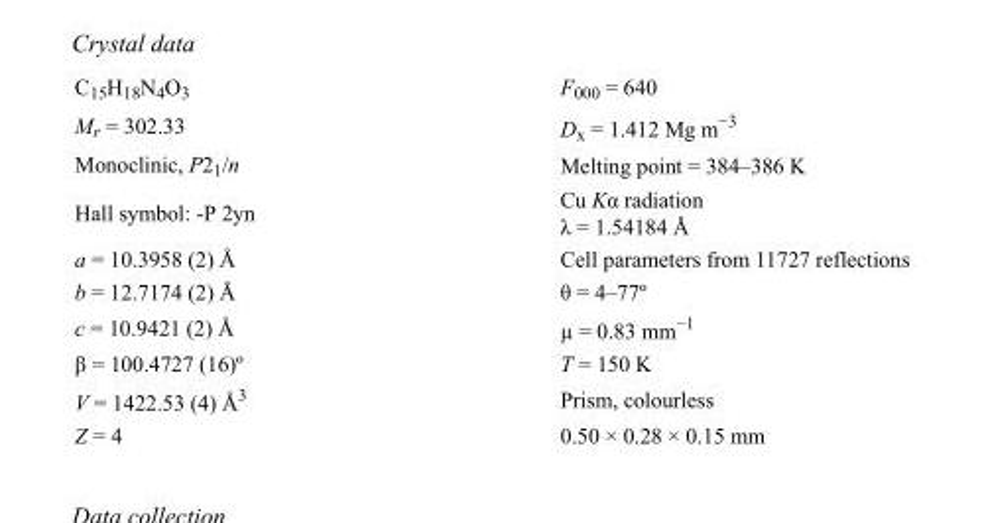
<table><tbody><tr><td>C<sub>15</sub>H<sub>18</sub>N<sub>4</sub>O<sub>3</sub></td><td>F000 = 640</td></tr><tr><td>M<sub>r</sub> = 302.33</td><td>D<sub>x</sub> = 1.412 Mg m<sup>−3</sup></td></tr><tr><td>Monoclinic, P2<sub>1</sub>/n</td><td>Melting point = 384–386 K</td></tr><tr><td>Hall symbol: -P 2yn</td><td>Cu Kα radiation λ = 1.54184 Å</td></tr><tr><td>a = 10.3958 (2) Å</td><td>Cell parameters from 11727 reflections</td></tr><tr><td>b = 12.7174 (2) Å</td><td>θ = 4–77º</td></tr><tr><td>c = 10.9421 (2) Å</td><td>µ = 0.83 mm<sup>−1</sup></td></tr><tr><td>β = 100.4727 (16)º</td><td>T = 150 K</td></tr><tr><td>V = 1422.53 (4) Å<sup>3</sup></td><td>Prism, colourless</td></tr><tr><td>Z = 4</td><td>0.50 × 0.28 × 0.15 mm</td></tr></tbody></table>